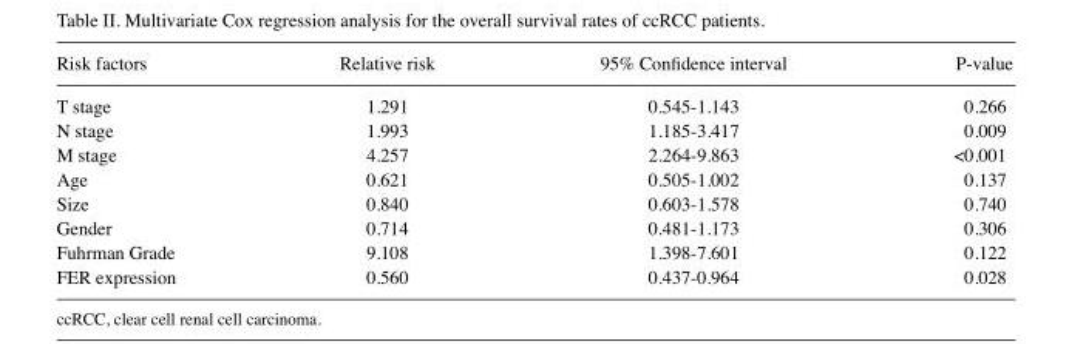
<table><thead><tr><td>Risk factors</td><td>Relative risk</td><td>95% Confidence interval</td><td>P-value</td></tr></thead><tbody><tr><td>T stage</td><td>1.291</td><td>0.545-1.143</td><td>0.266</td></tr><tr><td>N stage</td><td>1.993</td><td>1.185-3.417</td><td>0.009</td></tr><tr><td>M stage</td><td>4.257</td><td>2.264-9.863</td><td>&lt;0.001</td></tr><tr><td>Age</td><td>0.621</td><td>0.505-1.002</td><td>0.137</td></tr><tr><td>Size</td><td>0.840</td><td>0.603-1.578</td><td>0.740</td></tr><tr><td>Gender</td><td>0.714</td><td>0.481-1.173</td><td>0.306</td></tr><tr><td>Fuhrman Grade</td><td>9.108</td><td>1.398-7.601</td><td>0.122</td></tr><tr><td>FER expression</td><td>0.560</td><td>0.437-0.964</td><td>0.028</td></tr></tbody></table>